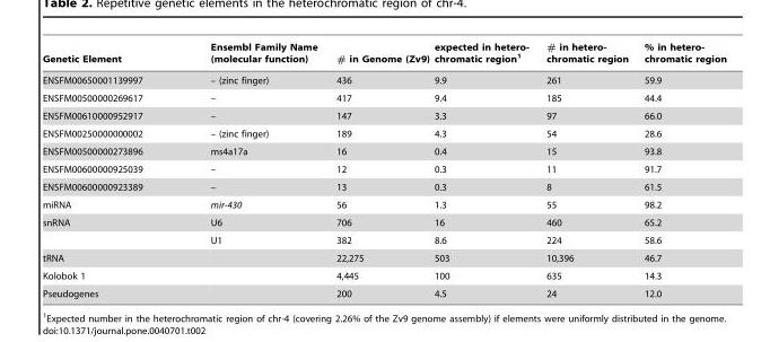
<table><thead><tr><td>Genetic Element</td><td>Ensembl Family Name (molecular function)</td><td># in Genome (Zv9)</td><td>expected in hetero- chromatic region<sup>1</sup></td><td># in hetero- chromatic region</td><td>% in hetero- chromatic region</td></tr></thead><tbody><tr><td>ENSFM00650001139997</td><td>– (zinc finger)</td><td>436</td><td>9.9</td><td>261</td><td>59.9</td></tr><tr><td>ENSFM00500000269617</td><td>–</td><td>417</td><td>9.4</td><td>185</td><td>44.4</td></tr><tr><td>ENSFM00610000952917</td><td>–</td><td>147</td><td>3.3</td><td>97</td><td>66.0</td></tr><tr><td>ENSFM00250000000002</td><td>– (zinc finger)</td><td>189</td><td>4.3</td><td>54</td><td>28.6</td></tr><tr><td>ENSFM00500000273896</td><td>ms4a17a</td><td>16</td><td>0.4</td><td>15</td><td>93.8</td></tr><tr><td>ENSFM00600000925039</td><td>–</td><td>12</td><td>0.3</td><td>11</td><td>91.7</td></tr><tr><td>ENSFM00600000923389</td><td>–</td><td>13</td><td>0.3</td><td>8</td><td>61.5</td></tr><tr><td>miRNA</td><td>mir-430</td><td>56</td><td>1.3</td><td>55</td><td>98.2</td></tr><tr><td rowspan="2">snRNA</td><td>U6</td><td>706</td><td>16</td><td>460</td><td>65.2</td></tr><tr><td>U1</td><td>382</td><td>8.6</td><td>224</td><td>58.6</td></tr><tr><td>tRNA</td><td></td><td>22,275</td><td>503</td><td>10,396</td><td>46.7</td></tr><tr><td>Kolobok 1</td><td></td><td>4,445</td><td>100</td><td>635</td><td>14.3</td></tr><tr><td>Pseudogenes</td><td></td><td>200</td><td>4.5</td><td>24</td><td>12.0</td></tr></tbody></table>